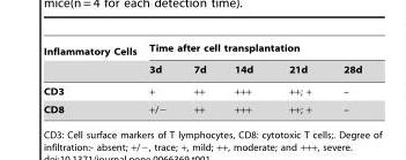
<table><thead><tr><td rowspan="2">Inflammatory Cells</td><td colspan="5">Time after cell transplantation</td></tr><tr><td>3d</td><td>7d</td><td>14d</td><td>21d</td><td>28d</td></tr></thead><tbody><tr><td>CD3</td><td>+</td><td>++</td><td>+++</td><td>++; +</td><td>–</td></tr><tr><td>CD8</td><td>+/−</td><td>++</td><td>+++</td><td>++; +</td><td>–</td></tr></tbody></table>